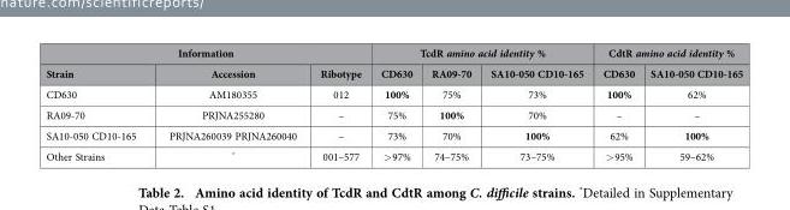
<table><thead><tr><td colspan="3">Information</td><td colspan="3">TcdR amino acid identity %</td><td colspan="2">CdtR amino acid identity %</td></tr><tr><td>Strain</td><td>Accession</td><td>Ribotype</td><td>CD630</td><td>RA09-70</td><td>SA10-050 CD10-165</td><td>CD630</td><td>SA10-050 CD10-165</td></tr></thead><tbody><tr><td>CD630</td><td>AM180355</td><td>012</td><td>100%</td><td>75%</td><td>73%</td><td>100%</td><td>62%</td></tr><tr><td>RA09-70</td><td>PRJNA255280</td><td>–</td><td>75%</td><td>100%</td><td>70%</td><td>–</td><td>–</td></tr><tr><td>SA10-050 CD10-165</td><td>PRJNA260039 PRJNA260040</td><td>–</td><td>73%</td><td>70%</td><td>100%</td><td>62%</td><td>100%</td></tr><tr><td>Other Strains</td><td>*</td><td>001–577</td><td>&gt; 97%</td><td>74–75%</td><td>73–75%</td><td>&gt; 95%</td><td>59–62%</td></tr></tbody></table>